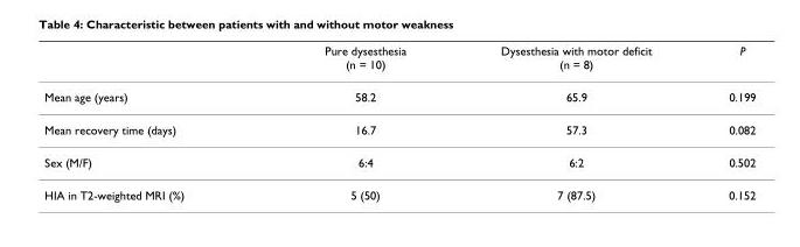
<table><thead><tr><td></td><td>Pure dysesthesia (n = 10)</td><td>Dysesthesia with motor deficit (n = 8)</td><td>P</td></tr></thead><tbody><tr><td>Mean age (years)</td><td>58.2</td><td>65.9</td><td>0.199</td></tr><tr><td>Mean recovery time (days)</td><td>16.7</td><td>57.3</td><td>0.082</td></tr><tr><td>Sex (M/F)</td><td>6:4</td><td>6:2</td><td>0.502</td></tr><tr><td>HIA in T2-weighted MRI (%)</td><td>5 (50)</td><td>7 (87.5)</td><td>0.152</td></tr></tbody></table>